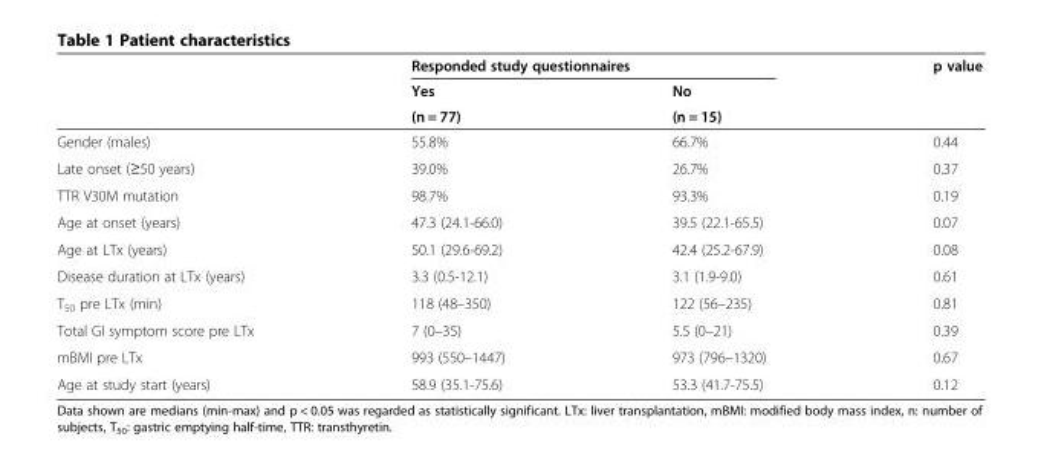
<table><thead><tr><td rowspan="3"></td><td colspan="2">Responded study questionnaires</td><td rowspan="3">p value</td></tr><tr><td rowspan="2">Yes (n = 77)</td><td rowspan="2">No (n = 15)</td></tr><tr></tr></thead><tbody><tr><td>Gender (males)</td><td>55.8%</td><td>66.7%</td><td>0.44</td></tr><tr><td>Late onset (≥50 years)</td><td>39.0%</td><td>26.7%</td><td>0.37</td></tr><tr><td>TTR V30M mutation</td><td>98.7%</td><td>93.3%</td><td>0.19</td></tr><tr><td>Age at onset (years)</td><td>47.3 (24.1-66.0)</td><td>39.5 (22.1-65.5)</td><td>0.07</td></tr><tr><td>Age at LTx (years)</td><td>50.1 (29.6-69.2)</td><td>42.4 (25.2-67.9)</td><td>0.08</td></tr><tr><td>Disease duration at LTx (years)</td><td>3.3 (0.5-12.1)</td><td>3.1 (1.9-9.0)</td><td>0.61</td></tr><tr><td>T<sub>50</sub> pre LTx (min)</td><td>118 (48–350)</td><td>122 (56–235)</td><td>0.81</td></tr><tr><td>Total GI symptom score pre LTx</td><td>7 (0–35)</td><td>5.5 (0–21)</td><td>0.39</td></tr><tr><td>mBMI pre LTx</td><td>993 (550–1447)</td><td>973 (796–1320)</td><td>0.67</td></tr><tr><td>Age at study start (years)</td><td>58.9 (35.1-75.6)</td><td>53.3 (41.7-75.5)</td><td>0.12</td></tr></tbody></table>